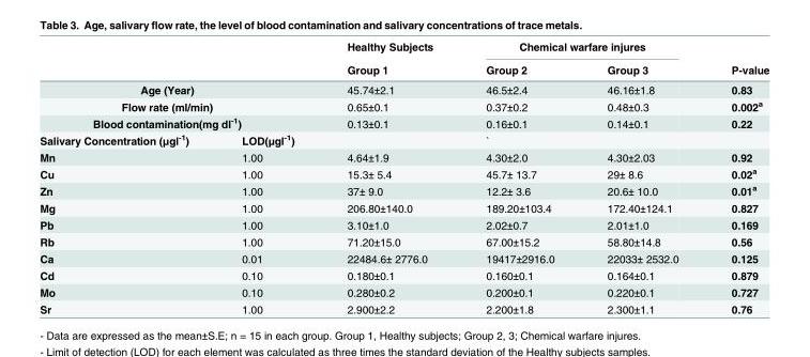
<table><thead><tr><td rowspan="2"></td><td rowspan="2"></td><td rowspan="2">Healthy Subjects Group 1</td><td colspan="2">Chemical warfare injures</td><td rowspan="2">P-value</td></tr><tr><td>Group 2</td><td>Group 3</td></tr></thead><tbody><tr><td colspan="2">Age (Year)</td><td>45.74±2.1</td><td>46.5±2.4</td><td>46.16±1.8</td><td>0.83</td></tr><tr><td colspan="2">Flow rate (ml/min)</td><td>0.65±0.1</td><td>0.37±0.2</td><td>0.48±0.3</td><td>0.002<sup>a</sup></td></tr><tr><td colspan="2">Blood contamination(mg dl<sup>-1</sup>)</td><td>0.13±0.1</td><td>0.16±0.1</td><td>0.14±0.1</td><td>0.22</td></tr><tr><td>Salivary Concentration (μgl<sup>-1</sup>)</td><td>LOD(μgl<sup>-1</sup>)</td><td></td><td>`</td><td></td><td></td></tr><tr><td>Mn</td><td>1.00</td><td>4.64±1.9</td><td>4.30±2.0</td><td>4.30±2.03</td><td>0.92</td></tr><tr><td>Cu</td><td>1.00</td><td>15.3± 5.4</td><td>45.7± 13.7</td><td>29± 8.6</td><td>0.02<sup>a</sup></td></tr><tr><td>Zn</td><td>1.00</td><td>37± 9.0</td><td>12.2± 3.6</td><td>20.6± 10.0</td><td>0.01<sup>a</sup></td></tr><tr><td>Mg</td><td>1.00</td><td>206.80±140.0</td><td>189.20±103.4</td><td>172.40±124.1</td><td>0.827</td></tr><tr><td>Pb</td><td>1.00</td><td>3.10±1.0</td><td>2.02±0.7</td><td>2.01±1.0</td><td>0.169</td></tr><tr><td>Rb</td><td>1.00</td><td>71.20±15.0</td><td>67.00±15.2</td><td>58.80±14.8</td><td>0.56</td></tr><tr><td>Ca</td><td>0.01</td><td>22484.6± 2776.0</td><td>19417±2916.0</td><td>22033± 2532.0</td><td>0.125</td></tr><tr><td>Cd</td><td>0.10</td><td>0.180±0.1</td><td>0.160±0.1</td><td>0.164±0.1</td><td>0.879</td></tr><tr><td>Mo</td><td>0.10</td><td>0.280±0.2</td><td>0.200±0.1</td><td>0.220±0.1</td><td>0.727</td></tr><tr><td>Sr</td><td>1.00</td><td>2.900±2.2</td><td>2.200±1.8</td><td>2.300±1.1</td><td>0.76</td></tr></tbody></table>